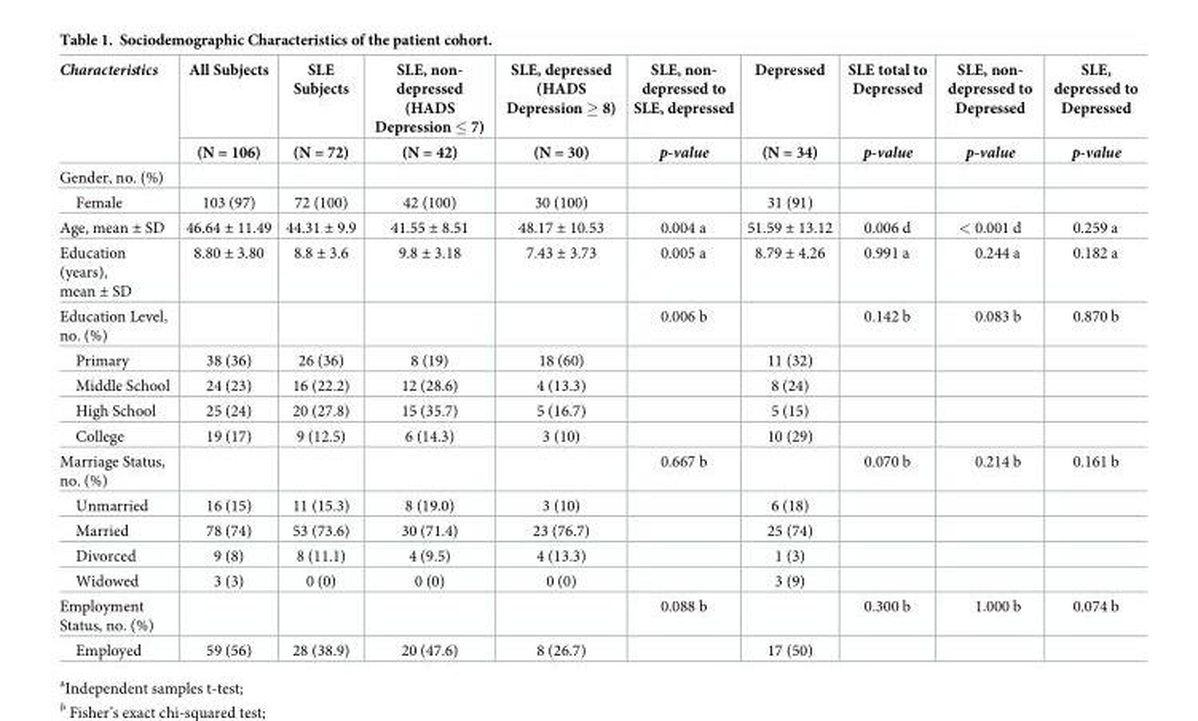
<table><thead><tr><td rowspan="2">Characteristics</td><td rowspan="2">All Subjects (N = 106)</td><td rowspan="2">SLE Subjects (N = 72)</td><td rowspan="2">SLE, non- depressed (HADS Depression ≤ 7) (N = 42)</td><td rowspan="2">SLE, depressed (HADS Depression ≥ 8) (N = 30)</td><td rowspan="2">SLE, non- depressed to SLE, depressed p-value</td><td rowspan="2">Depressed (N = 34)</td><td rowspan="2">SLE total to Depressed p-value</td><td rowspan="2">SLE, non- depressed to Depressed p-value</td><td rowspan="2">SLE, depressed to Depressed p-value</td></tr><tr></tr></thead><tbody><tr><td colspan="10">Gender, no. (%)</td></tr><tr><td>Female</td><td>103 (97)</td><td>72 (100)</td><td>42 (100)</td><td>30 (100)</td><td></td><td>31 (91)</td><td></td><td></td><td></td></tr><tr><td>Age, mean ± SD</td><td>46.64 ± 11.49</td><td>44.31 ± 9.9</td><td>41.55 ± 8.51</td><td>48.17 ± 10.53</td><td>0.004 a</td><td>51.59 ± 13.12</td><td>0.006 d</td><td>&lt; 0.001 d</td><td>0.259 a</td></tr><tr><td>Education (years), mean ± SD</td><td>8.80 ± 3.80</td><td>8.8 ± 3.6</td><td>9.8 ± 3.18</td><td>7.43 ± 3.73</td><td>0.005 a</td><td>8.79 ± 4.26</td><td>0.991 a</td><td>0.244 a</td><td>0.182 a</td></tr><tr><td>Education Level, no. (%)</td><td></td><td></td><td></td><td></td><td>0.006 b</td><td></td><td>0.142 b</td><td>0.083 b</td><td>0.870 b</td></tr><tr><td>Primary</td><td>38 (36)</td><td>26 (36)</td><td>8 (19)</td><td>18 (60)</td><td></td><td>11 (32)</td><td></td><td></td><td></td></tr><tr><td>Middle School</td><td>24 (23)</td><td>16 (22.2)</td><td>12 (28.6)</td><td>4 (13.3)</td><td></td><td>8 (24)</td><td></td><td></td><td></td></tr><tr><td>High School</td><td>25 (24)</td><td>20 (27.8)</td><td>15 (35.7)</td><td>5 (16.7)</td><td></td><td>5 (15)</td><td></td><td></td><td></td></tr><tr><td>College</td><td>19 (17)</td><td>9 (12.5)</td><td>6 (14.3)</td><td>3 (10)</td><td></td><td>10 (29)</td><td></td><td></td><td></td></tr><tr><td>Marriage Status, no. (%)</td><td></td><td></td><td></td><td></td><td>0.667 b</td><td></td><td>0.070 b</td><td>0.214 b</td><td>0.161 b</td></tr><tr><td>Unmarried</td><td>16 (15)</td><td>11 (15.3)</td><td>8 (19.0)</td><td>3 (10)</td><td></td><td>6 (18)</td><td></td><td></td><td></td></tr><tr><td>Married</td><td>78 (74)</td><td>53 (73.6)</td><td>30 (71.4)</td><td>23 (76.7)</td><td></td><td>25 (74)</td><td></td><td></td><td></td></tr><tr><td>Divorced</td><td>9 (8)</td><td>8 (11.1)</td><td>4 (9.5)</td><td>4 (13.3)</td><td></td><td>1 (3)</td><td></td><td></td><td></td></tr><tr><td>Widowed</td><td>3 (3)</td><td>0 (0)</td><td>0 (0)</td><td>0 (0)</td><td></td><td>3 (9)</td><td></td><td></td><td></td></tr><tr><td>Employment Status, no. (%)</td><td></td><td></td><td></td><td></td><td>0.088 b</td><td></td><td>0.300 b</td><td>1.000 b</td><td>0.074 b</td></tr><tr><td>Employed</td><td>59 (56)</td><td>28 (38.9)</td><td>20 (47.6)</td><td>8 (26.7)</td><td></td><td>17 (50)</td><td></td><td></td><td></td></tr></tbody></table>